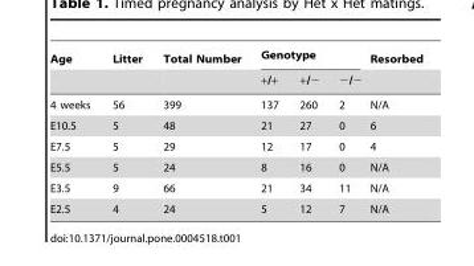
<table><thead><tr><td rowspan="2">Age</td><td rowspan="2">Litter</td><td rowspan="2">Total Number</td><td colspan="3">Genotype</td><td rowspan="2">Resorbed</td></tr><tr><td>+/+</td><td>+/−</td><td>−/−</td></tr></thead><tbody><tr><td>4 weeks</td><td>56</td><td>399</td><td>137</td><td>260</td><td>2</td><td>N/A</td></tr><tr><td>E10.5</td><td>5</td><td>48</td><td>21</td><td>27</td><td>0</td><td>6</td></tr><tr><td>E7.5</td><td>5</td><td>29</td><td>12</td><td>17</td><td>0</td><td>4</td></tr><tr><td>E5.5</td><td>5</td><td>24</td><td>8</td><td>16</td><td>0</td><td>N/A</td></tr><tr><td>E3.5</td><td>9</td><td>66</td><td>21</td><td>34</td><td>11</td><td>N/A</td></tr><tr><td>E2.5</td><td>4</td><td>24</td><td>5</td><td>12</td><td>7</td><td>N/A</td></tr></tbody></table>